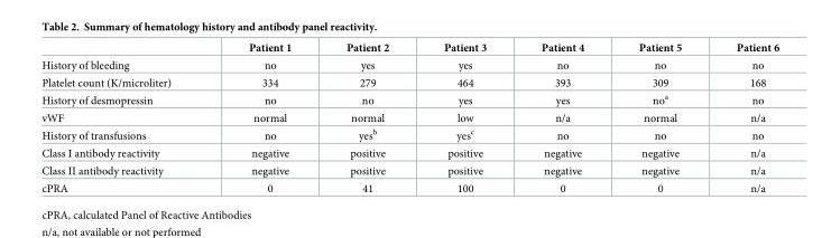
<table><thead><tr><td></td><td>Patient 1</td><td>Patient 2</td><td>Patient 3</td><td>Patient 4</td><td>Patient 5</td><td>Patient 6</td></tr></thead><tbody><tr><td>History of bleeding</td><td>no</td><td>yes</td><td>yes</td><td>no</td><td>no</td><td>no</td></tr><tr><td>Platelet count (K/microliter)</td><td>334</td><td>279</td><td>464</td><td>393</td><td>309</td><td>168</td></tr><tr><td>History of desmopressin</td><td>no</td><td>no</td><td>yes</td><td>yes</td><td>no<sup>a</sup></td><td>no</td></tr><tr><td>vWF</td><td>normal</td><td>normal</td><td>low</td><td>n/a</td><td>normal</td><td>n/a</td></tr><tr><td>History of transfusions</td><td>no</td><td>yes<sup>b</sup></td><td>yes<sup>c</sup></td><td>no</td><td>no</td><td>no</td></tr><tr><td>Class I antibody reactivity</td><td>negative</td><td>positive</td><td>positive</td><td>negative</td><td>negative</td><td>n/a</td></tr><tr><td>Class II antibody reactivity</td><td>negative</td><td>positive</td><td>positive</td><td>negative</td><td>negative</td><td>n/a</td></tr><tr><td>cPRA</td><td>0</td><td>41</td><td>100</td><td>0</td><td>0</td><td>n/a</td></tr></tbody></table>